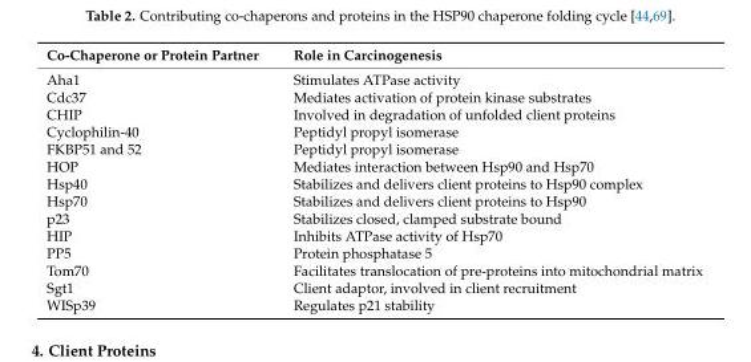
<table><thead><tr><td>Co-Chaperone or Protein Partner</td><td>Role in Carcinogenesis</td></tr></thead><tbody><tr><td>Aha1</td><td>Stimulates ATPase activity</td></tr><tr><td>Cdc37</td><td>Mediates activation of protein kinase substrates</td></tr><tr><td>CHIP</td><td>Involved in degradation of unfolded client proteins</td></tr><tr><td>Cyclophilin-40</td><td>Peptidyl propyl isomerase</td></tr><tr><td>FKBP51 and 52</td><td>Peptidyl propyl isomerase</td></tr><tr><td>HOP</td><td>Mediates interaction between Hsp90 and Hsp70</td></tr><tr><td>Hsp40</td><td>Stabilizes and delivers client proteins to Hsp90 complex</td></tr><tr><td>Hsp70</td><td>Stabilizes and delivers client proteins to Hsp90</td></tr><tr><td>p23</td><td>Stabilizes closed, clamped substrate bound</td></tr><tr><td>HIP</td><td>Inhibits ATPase activity of Hsp70</td></tr><tr><td>PP5</td><td>Protein phosphatase 5</td></tr><tr><td>Tom70</td><td>Facilitates translocation of pre-proteins into mitochondrial matrix</td></tr><tr><td>Sgt1</td><td>Client adaptor, involved in client recruitment</td></tr><tr><td>WISp39</td><td>Regulates p21 stability</td></tr></tbody></table>